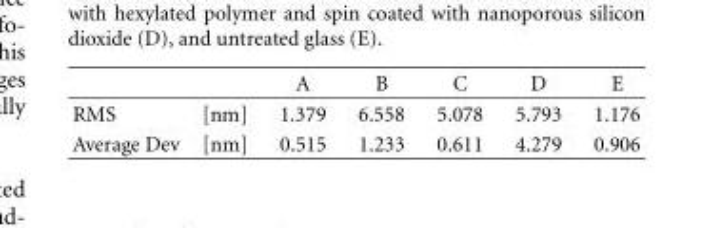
<table><thead><tr><td></td><td></td><td>A</td><td>B</td><td>C</td><td>D</td><td>E</td></tr></thead><tbody><tr><td>RMS</td><td>[nm]</td><td>1.379</td><td>6.558</td><td>5.078</td><td>5.793</td><td>1.176</td></tr><tr><td>Average Dev</td><td>[nm]</td><td>0.515</td><td>1.233</td><td>0.611</td><td>4.279</td><td>0.906</td></tr></tbody></table>